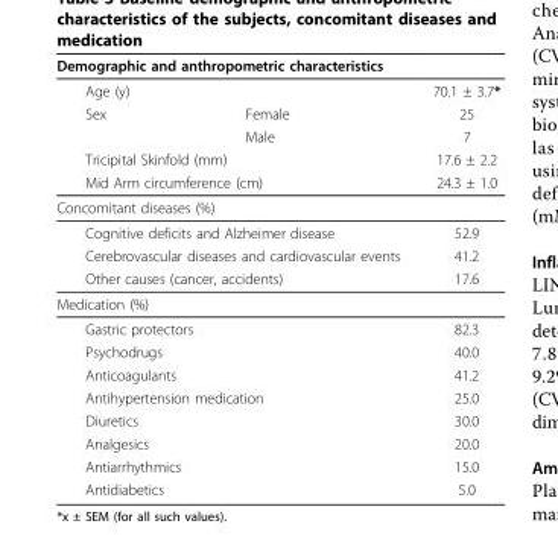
<table><thead><tr><td rowspan="2" colspan="2">Demographic and anthropometric characteristics Age (y)</td><td rowspan="3">70.1 ± 3.7* 25</td></tr><tr></tr><tr><td>Sex</td><td>Female</td></tr></thead><tbody><tr><td></td><td>Male</td><td>7</td></tr><tr><td colspan="2">Tricipital Skinfold (mm)</td><td>17.6 ± 2.2</td></tr><tr><td colspan="2">Mid Arm circumference (cm)</td><td>24.3 ± 1.0</td></tr><tr><td colspan="3">Concomitant diseases (%)</td></tr><tr><td colspan="2">Cognitive deficits and Alzheimer disease</td><td>52.9</td></tr><tr><td colspan="2">Cerebrovascular diseases and cardiovascular events</td><td>41.2</td></tr><tr><td colspan="2">Other causes (cancer, accidents)</td><td>17.6</td></tr><tr><td colspan="3">Medication (%)</td></tr><tr><td colspan="2">Gastric protectors</td><td>82.3</td></tr><tr><td colspan="2">Psychodrugs</td><td>40.0</td></tr><tr><td colspan="2">Anticoagulants</td><td>41.2</td></tr><tr><td colspan="2">Antihypertension medication</td><td>25.0</td></tr><tr><td colspan="2">Diuretics</td><td>30.0</td></tr><tr><td colspan="2">Analgesics</td><td>20.0</td></tr><tr><td colspan="2">Antiarrhythmics</td><td>15.0</td></tr><tr><td colspan="2">Antidiabetics</td><td>5.0</td></tr></tbody></table>